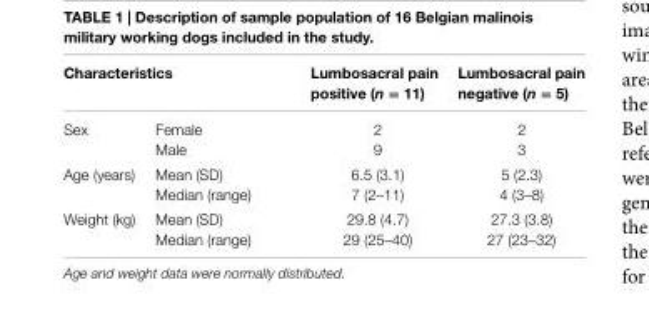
<table><thead><tr><td colspan="2">Characteristics</td><td rowspan="2">Lumbosacral pain positive (n = 11) 2</td><td rowspan="2">Lumbosacral pain negative (n = 5) 2</td></tr><tr><td>Sex</td><td>Female</td></tr></thead><tbody><tr><td></td><td>Male</td><td>9</td><td>3</td></tr><tr><td rowspan="2">Age (years)</td><td>Mean (SD)</td><td>6.5 (3.1)</td><td>5 (2.3)</td></tr><tr><td>Median (range)</td><td>7 (2–11)</td><td>4 (3–8)</td></tr><tr><td rowspan="2">Weight (kg)</td><td>Mean (SD)</td><td>29.8 (4.7)</td><td>27.3 (3.8)</td></tr><tr><td>Median (range)</td><td>29 (25–40)</td><td>27 (23–32)</td></tr></tbody></table>